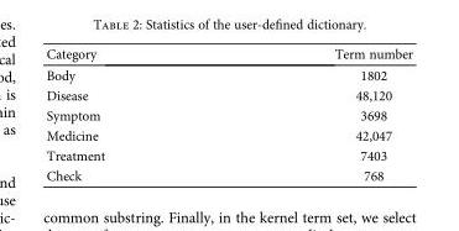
<table><thead><tr><td>Category</td><td>Term number</td></tr></thead><tbody><tr><td>Body</td><td>1802</td></tr><tr><td>Disease</td><td>48,120</td></tr><tr><td>Symptom</td><td>3698</td></tr><tr><td>Medicine</td><td>42,047</td></tr><tr><td>Treatment</td><td>7403</td></tr><tr><td>Check</td><td>768</td></tr></tbody></table>